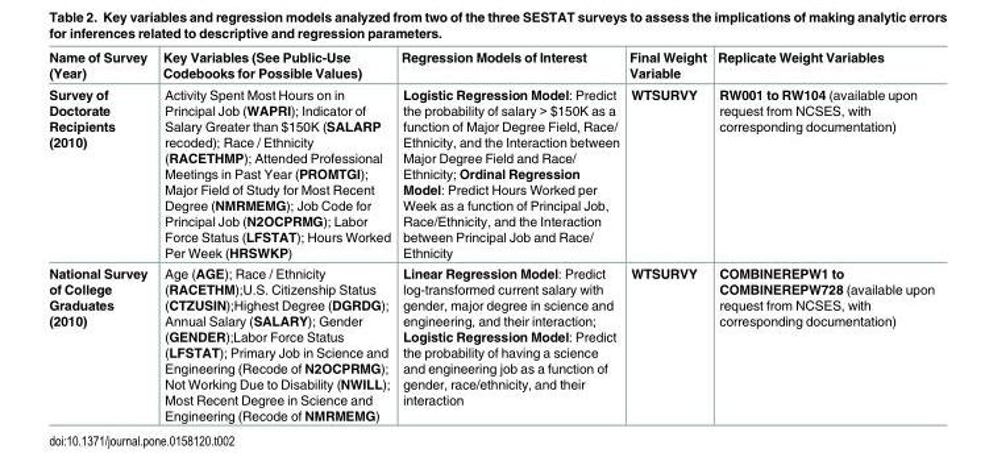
<table><thead><tr><td>Name of Survey (Year)</td><td>Key Variables (See Public-Use Codebooks for Possible Values)</td><td>Regression Models of Interest</td><td>Final Weight Variable</td><td>Replicate Weight Variables</td></tr></thead><tbody><tr><td>Survey of Doctorate Recipients (2010)</td><td>Activity Spent Most Hours on in Principal Job (WAPRI); Indicator of Salary Greater than $150K (SALARP recoded); Race / Ethnicity (RACETHMP); Attended Professional Meetings in Past Year (PROMTGI); Major Field of Study for Most Recent Degree (NMRMEMG); Job Code for Principal Job (N2OCPRMG); Labor Force Status (LFSTAT); Hours Worked Per Week (HRSWKP)</td><td>Logistic Regression Model: Predict the probability of salary &gt; $150K as a function of Major Degree Field, Race/ Ethnicity, and the Interaction between Major Degree Field and Race/ Ethnicity; Ordinal Regression Model: Predict Hours Worked per Week as a function of Principal Job, Race/Ethnicity, and the Interaction between Principal Job and Race/ Ethnicity</td><td>WTSURVY</td><td>RW001 to RW104 (available upon request from NCSES, with corresponding documentation)</td></tr><tr><td>National Survey of College Graduates (2010)</td><td>Age (AGE); Race / Ethnicity (RACETHM);U.S. Citizenship Status (CTZUSIN);Highest Degree (DGRDG); Annual Salary (SALARY); Gender (GENDER);Labor Force Status (LFSTAT); Primary Job in Science and Engineering (Recode of N2OCPRMG); Not Working Due to Disability (NWILL); Most Recent Degree in Science and Engineering (Recode of NMRMEMG)</td><td>Linear Regression Model: Predict log-transformed current salary with gender, major degree in science and engineering, and their interaction; Logistic Regression Model: Predict the probability of having a science and engineering job as a function of gender, race/ethnicity, and their interaction</td><td>WTSURVY</td><td>COMBINEREPW1 to COMBINEREPW728 (available upon request from NCSES, with corresponding documentation)</td></tr></tbody></table>